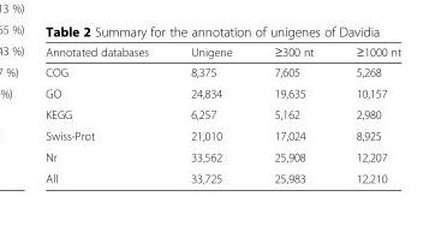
<table><thead><tr><td>Annotated databases</td><td>Unigene</td><td>≥300 nt</td><td>≥1000 nt</td></tr></thead><tbody><tr><td>COG</td><td>8,375</td><td>7,605</td><td>5,268</td></tr><tr><td>GO</td><td>24,834</td><td>19,635</td><td>10,157</td></tr><tr><td>KEGG</td><td>6,257</td><td>5,162</td><td>2,980</td></tr><tr><td>Swiss-Prot</td><td>21,010</td><td>17,024</td><td>8,925</td></tr><tr><td>Nr</td><td>33,562</td><td>25,908</td><td>12,207</td></tr><tr><td>All</td><td>33,725</td><td>25,983</td><td>12,210</td></tr></tbody></table>